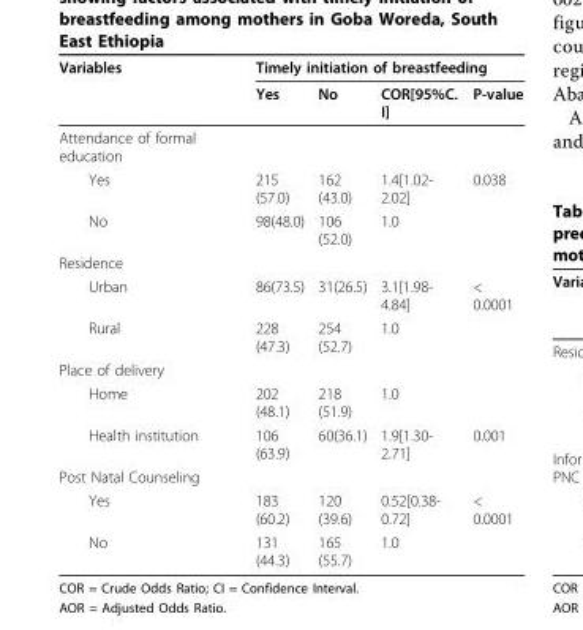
<table><thead><tr><td rowspan="2">Variables</td><td colspan="4">Timely initiation of breastfeeding</td></tr><tr><td>Yes</td><td>No</td><td>COR[95%C. I]</td><td>P-value</td></tr></thead><tbody><tr><td colspan="5">Attendance of formal education</td></tr><tr><td>Yes</td><td>215 (57.0)</td><td>162 (43.0)</td><td>1.4[1.02- 2.02]</td><td>0.038</td></tr><tr><td>No</td><td>98(48.0)</td><td>106 (52.0)</td><td>1.0</td><td></td></tr><tr><td colspan="5">Residence</td></tr><tr><td>Urban</td><td>86(73.5)</td><td>31(26.5)</td><td>3.1[1.98- 4.84]</td><td>&lt; 0.0001</td></tr><tr><td>Rural</td><td>228 (47.3)</td><td>254 (52.7)</td><td>1.0</td><td></td></tr><tr><td colspan="5">Place of delivery</td></tr><tr><td>Home</td><td>202 (48.1)</td><td>218 (51.9)</td><td>1.0</td><td></td></tr><tr><td>Health institution</td><td>106 (63.9)</td><td>60(36.1)</td><td>1.9[1.30- 2.71]</td><td>0.001</td></tr><tr><td colspan="5">Post Natal Counseling</td></tr><tr><td>Yes</td><td>183 (60.2)</td><td>120 (39.6)</td><td>0.52[0.38- 0.72]</td><td>&lt; 0.0001</td></tr><tr><td>No</td><td>131 (44.3)</td><td>165 (55.7)</td><td>1.0</td><td></td></tr></tbody></table>